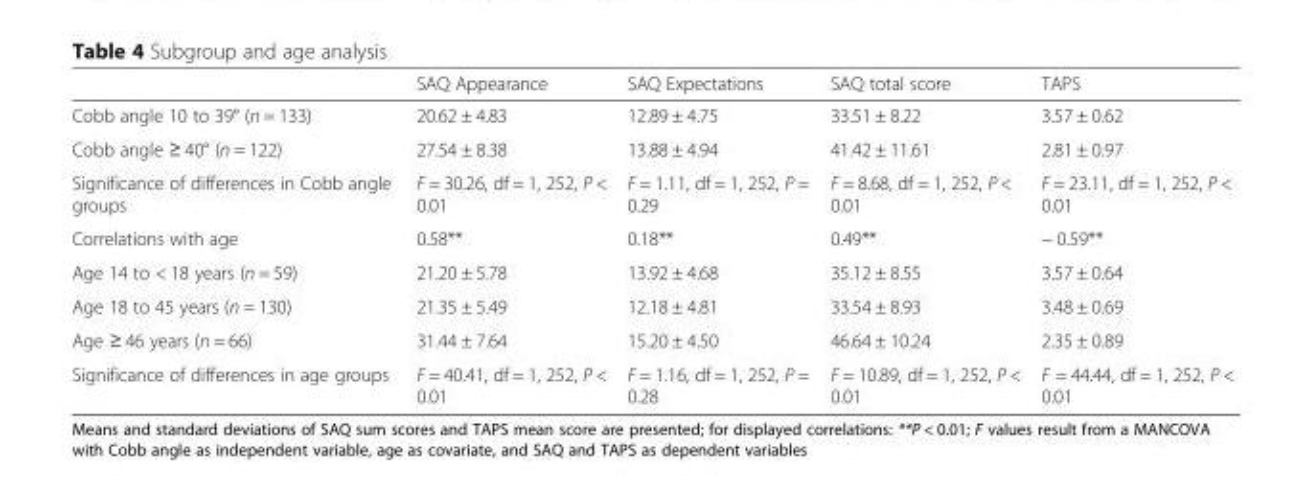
<table><thead><tr><td></td><td>SAQ Appearance</td><td>SAQ Expectations</td><td>SAQ total score</td><td>TAPS</td></tr></thead><tbody><tr><td>Cobb angle 10 to 39° (n = 133)</td><td>20.62 ± 4.83</td><td>12.89 ± 4.75</td><td>33.51 ± 8.22</td><td>3.57 ± 0.62</td></tr><tr><td>Cobb angle ≥ 40° (n = 122)</td><td>27.54 ± 8.38</td><td>13.88 ± 4.94</td><td>41.42 ± 11.61</td><td>2.81 ± 0.97</td></tr><tr><td>Significance of differences in Cobb angle groups</td><td>F = 30.26, df = 1, 252, P &lt; 0.01</td><td>F = 1.11, df = 1, 252, P = 0.29</td><td>F = 8.68, df = 1, 252, P &lt; 0.01</td><td>F = 23.11, df = 1, 252, P &lt; 0.01</td></tr><tr><td>Correlations with age</td><td>0.58**</td><td>0.18**</td><td>0.49**</td><td>− 0.59**</td></tr><tr><td>Age 14 to &lt; 18 years (n = 59)</td><td>21.20 ± 5.78</td><td>13.92 ± 4.68</td><td>35.12 ± 8.55</td><td>3.57 ± 0.64</td></tr><tr><td>Age 18 to 45 years (n = 130)</td><td>21.35 ± 5.49</td><td>12.18 ± 4.81</td><td>33.54 ± 8.93</td><td>3.48 ± 0.69</td></tr><tr><td>Age ≥ 46 years (n = 66)</td><td>31.44 ± 7.64</td><td>15.20 ± 4.50</td><td>46.64 ± 10.24</td><td>2.35 ± 0.89</td></tr><tr><td>Significance of differences in age groups</td><td>F = 40.41, df = 1, 252, P &lt; 0.01</td><td>F = 1.16, df = 1, 252, P = 0.28</td><td>F = 10.89, df = 1, 252, P &lt; 0.01</td><td>F = 44.44, df = 1, 252, P &lt; 0.01</td></tr></tbody></table>